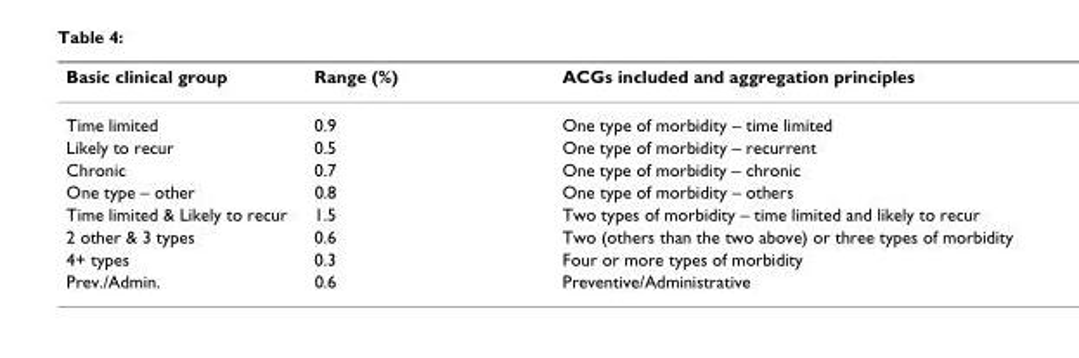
<table><thead><tr><td>Basic clinical group</td><td>Range (%)</td><td>ACGs included and aggregation principles</td></tr></thead><tbody><tr><td>Time limited</td><td>0.9</td><td>One type of morbidity – time limited</td></tr><tr><td>Likely to recur</td><td>0.5</td><td>One type of morbidity – recurrent</td></tr><tr><td>Chronic</td><td>0.7</td><td>One type of morbidity – chronic</td></tr><tr><td>One type – other</td><td>0.8</td><td>One type of morbidity – others</td></tr><tr><td>Time limited &amp; Likely to recur</td><td>1.5</td><td>Two types of morbidity – time limited and likely to recur</td></tr><tr><td>2 other &amp; 3 types</td><td>0.6</td><td>Two (others than the two above) or three types of morbidity</td></tr><tr><td>4+ types</td><td>0.3</td><td>Four or more types of morbidity</td></tr><tr><td>Prev./Admin.</td><td>0.6</td><td>Preventive/Administrative</td></tr></tbody></table>